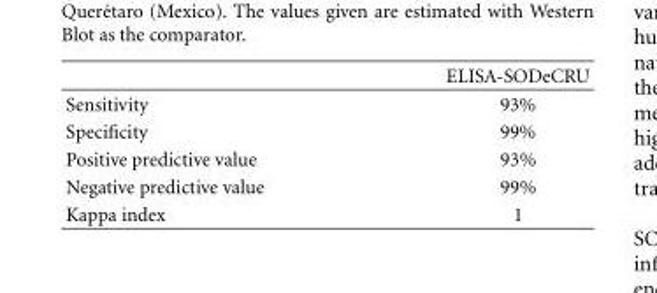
<table><thead><tr><td></td><td>ELISA-SODeCRU</td></tr></thead><tbody><tr><td>Sensitivity</td><td>93%</td></tr><tr><td>Specificity</td><td>99%</td></tr><tr><td>Positive predictive value</td><td>93%</td></tr><tr><td>Negative predictive value</td><td>99%</td></tr><tr><td>Kappa index</td><td>1</td></tr></tbody></table>